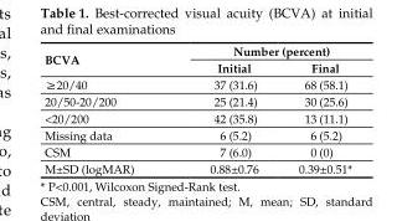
<table><thead><tr><td rowspan="2">BCVA</td><td colspan="2">Number (percent)</td></tr><tr><td>Initial</td><td>Final</td></tr></thead><tbody><tr><td>≥20/40</td><td>37 (31.6)</td><td>68 (58.1)</td></tr><tr><td>20/50-20/200</td><td>25 (21.4)</td><td>30 (25.6)</td></tr><tr><td>&lt;20/200</td><td>42 (35.8)</td><td>13 (11.1)</td></tr><tr><td>Missing data</td><td>6 (5.2)</td><td>6 (5.2)</td></tr><tr><td>CSM</td><td>7 (6.0)</td><td>0 (0)</td></tr><tr><td>M±SD (logMAR)</td><td>0.88±0.76</td><td>0.39±0.51*</td></tr></tbody></table>